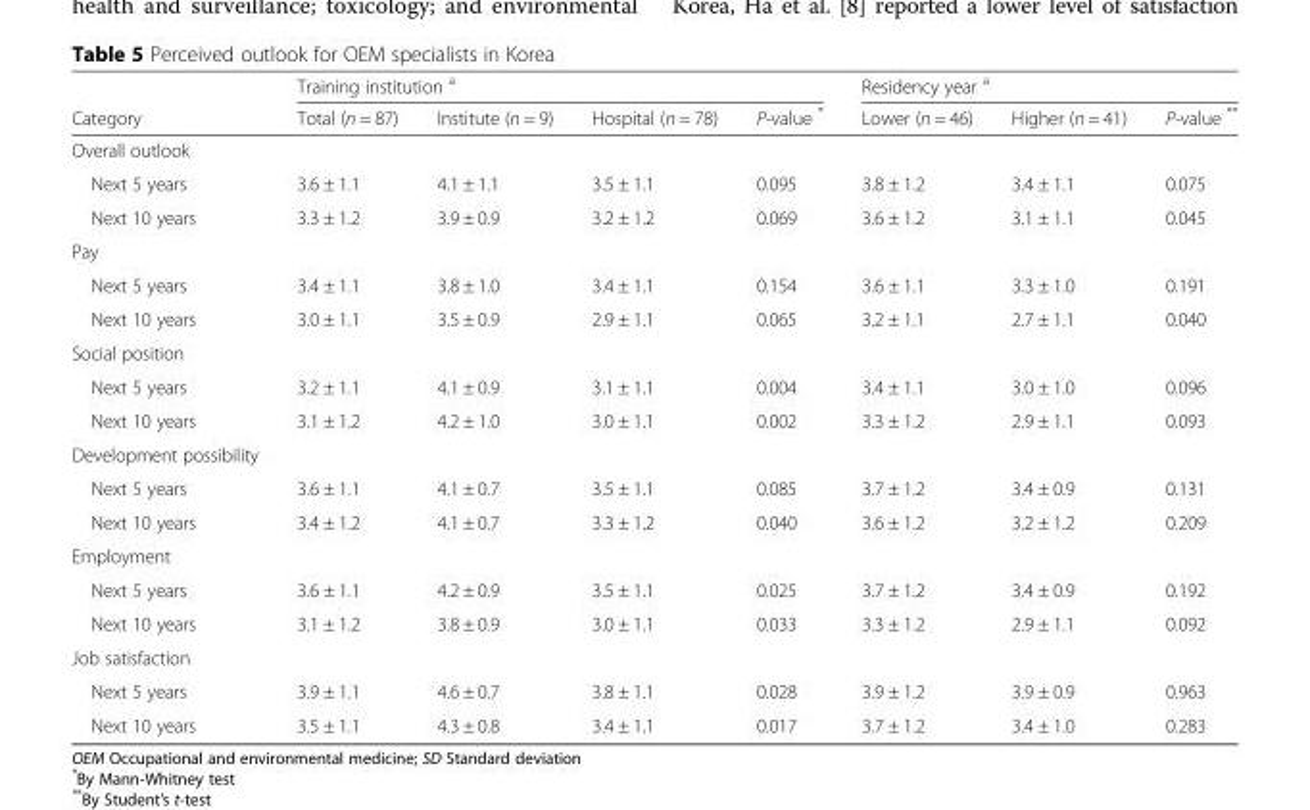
<table><thead><tr><td rowspan="2">Category</td><td colspan="4">Training institution <sup>a</sup></td><td colspan="3">Residency year <sup>a</sup></td></tr><tr><td>Total (n = 87)</td><td>Institute (n = 9)</td><td>Hospital (n = 78)</td><td>P-value *</td><td>Lower (n = 46)</td><td>Higher (n = 41)</td><td>P-value **</td></tr></thead><tbody><tr><td colspan="8">Overall outlook</td></tr><tr><td>Next 5 years</td><td>3.6 ± 1.1</td><td>4.1 ± 1.1</td><td>3.5 ± 1.1</td><td>0.095</td><td>3.8 ± 1.2</td><td>3.4 ± 1.1</td><td>0.075</td></tr><tr><td>Next 10 years</td><td>3.3 ± 1.2</td><td>3.9 ± 0.9</td><td>3.2 ± 1.2</td><td>0.069</td><td>3.6 ± 1.2</td><td>3.1 ± 1.1</td><td>0.045</td></tr><tr><td colspan="8">Pay</td></tr><tr><td>Next 5 years</td><td>3.4 ± 1.1</td><td>3.8 ± 1.0</td><td>3.4 ± 1.1</td><td>0.154</td><td>3.6 ± 1.1</td><td>3.3 ± 1.0</td><td>0.191</td></tr><tr><td>Next 10 years</td><td>3.0 ± 1.1</td><td>3.5 ± 0.9</td><td>2.9 ± 1.1</td><td>0.065</td><td>3.2 ± 1.1</td><td>2.7 ± 1.1</td><td>0.040</td></tr><tr><td colspan="8">Social position</td></tr><tr><td>Next 5 years</td><td>3.2 ± 1.1</td><td>4.1 ± 0.9</td><td>3.1 ± 1.1</td><td>0.004</td><td>3.4 ± 1.1</td><td>3.0 ± 1.0</td><td>0.096</td></tr><tr><td>Next 10 years</td><td>3.1 ± 1.2</td><td>4.2 ± 1.0</td><td>3.0 ± 1.1</td><td>0.002</td><td>3.3 ± 1.2</td><td>2.9 ± 1.1</td><td>0.093</td></tr><tr><td colspan="8">Development possibility</td></tr><tr><td>Next 5 years</td><td>3.6 ± 1.1</td><td>4.1 ± 0.7</td><td>3.5 ± 1.1</td><td>0.085</td><td>3.7 ± 1.2</td><td>3.4 ± 0.9</td><td>0.131</td></tr><tr><td>Next 10 years</td><td>3.4 ± 1.2</td><td>4.1 ± 0.7</td><td>3.3 ± 1.2</td><td>0.040</td><td>3.6 ± 1.2</td><td>3.2 ± 1.2</td><td>0.209</td></tr><tr><td colspan="8">Employment</td></tr><tr><td>Next 5 years</td><td>3.6 ± 1.1</td><td>4.2 ± 0.9</td><td>3.5 ± 1.1</td><td>0.025</td><td>3.7 ± 1.2</td><td>3.4 ± 0.9</td><td>0.192</td></tr><tr><td>Next 10 years</td><td>3.1 ± 1.2</td><td>3.8 ± 0.9</td><td>3.0 ± 1.1</td><td>0.033</td><td>3.3 ± 1.2</td><td>2.9 ± 1.1</td><td>0.092</td></tr><tr><td colspan="8">Job satisfaction</td></tr><tr><td>Next 5 years</td><td>3.9 ± 1.1</td><td>4.6 ± 0.7</td><td>3.8 ± 1.1</td><td>0.028</td><td>3.9 ± 1.2</td><td>3.9 ± 0.9</td><td>0.963</td></tr><tr><td>Next 10 years</td><td>3.5 ± 1.1</td><td>4.3 ± 0.8</td><td>3.4 ± 1.1</td><td>0.017</td><td>3.7 ± 1.2</td><td>3.4 ± 1.0</td><td>0.283</td></tr></tbody></table>